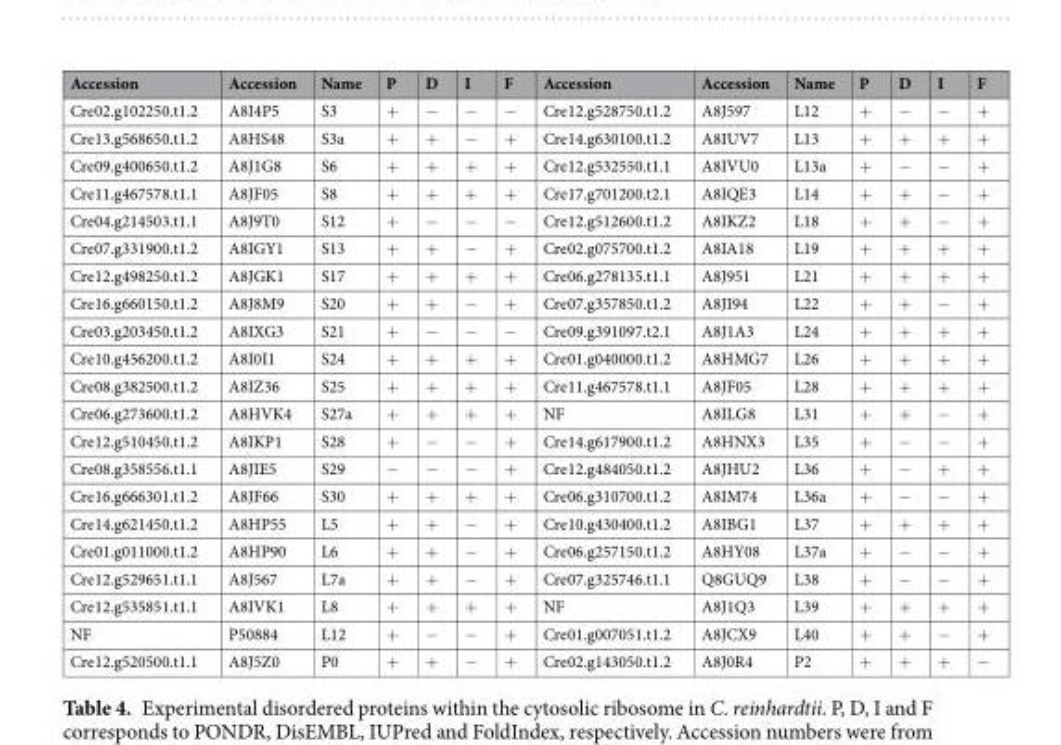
<table><thead><tr><td>Accession</td><td>Accession</td><td>Name</td><td>P</td><td>D</td><td>I</td><td>F</td><td>Accession</td><td>Accession</td><td>Name</td><td>P</td><td>D</td><td>I</td><td>F</td></tr></thead><tbody><tr><td>Cre02.g102250.t1.2</td><td>A8I4P5</td><td>S3</td><td>+</td><td>−</td><td>−</td><td>−</td><td>Cre12.g528750.t1.2</td><td>A8J597</td><td>L12</td><td>+</td><td>−</td><td>−</td><td>+</td></tr><tr><td>Cre13.g568650.t1.2</td><td>A8HS48</td><td>S3a</td><td>+</td><td>+</td><td>−</td><td>+</td><td>Cre14.g630100.t1.2</td><td>A8IUV7</td><td>L13</td><td>+</td><td>+</td><td>+</td><td>+</td></tr><tr><td>Cre09.g400650.t1.2</td><td>A8J1G8</td><td>S6</td><td>+</td><td>+</td><td>+</td><td>+</td><td>Cre12.g532550.t1.1</td><td>A8IVU0</td><td>L13a</td><td>+</td><td>−</td><td>−</td><td>+</td></tr><tr><td>Cre11.g467578.t1.1</td><td>A8JF05</td><td>S8</td><td>+</td><td>+</td><td>+</td><td>+</td><td>Cre17.g701200.t2.1</td><td>A8IQE3</td><td>L14</td><td>+</td><td>+</td><td>−</td><td>+</td></tr><tr><td>Cre04.g214503.t1.1</td><td>A8J9T0</td><td>S12</td><td>+</td><td>−</td><td>−</td><td>−</td><td>Cre12.g512600.t1.2</td><td>A8IKZ2</td><td>L18</td><td>+</td><td>+</td><td>−</td><td>+</td></tr><tr><td>Cre07.g331900.t1.2</td><td>A8IGY1</td><td>S13</td><td>+</td><td>+</td><td>−</td><td>+</td><td>Cre02.g075700.t1.2</td><td>A8IA18</td><td>L19</td><td>+</td><td>+</td><td>+</td><td>+</td></tr><tr><td>Cre12.g498250.t1.2</td><td>A8JGK1</td><td>S17</td><td>+</td><td>+</td><td>+</td><td>+</td><td>Cre06.g278135.t1.1</td><td>A8J951</td><td>L21</td><td>+</td><td>+</td><td>+</td><td>+</td></tr><tr><td>Cre16.g660150.t1.2</td><td>A8J8M9</td><td>S20</td><td>+</td><td>+</td><td>−</td><td>+</td><td>Cre07.g357850.t1.2</td><td>A8JI94</td><td>L22</td><td>+</td><td>+</td><td>−</td><td>+</td></tr><tr><td>Cre03.g203450.t1.2</td><td>A8IXG3</td><td>S21</td><td>+</td><td>−</td><td>−</td><td>−</td><td>Cre09.g391097.t2.1</td><td>A8J1A3</td><td>L24</td><td>+</td><td>+</td><td>+</td><td>+</td></tr><tr><td>Cre10.g456200.t1.2</td><td>A8I0I1</td><td>S24</td><td>+</td><td>+</td><td>+</td><td>+</td><td>Cre01.g040000.t1.2</td><td>A8HMG7</td><td>L26</td><td>+</td><td>+</td><td>+</td><td>+</td></tr><tr><td>Cre08.g382500.t1.2</td><td>A8IZ36</td><td>S25</td><td>+</td><td>+</td><td>+</td><td>+</td><td>Cre11.g467578.t1.1</td><td>A8JF05</td><td>L28</td><td>+</td><td>+</td><td>+</td><td>+</td></tr><tr><td>Cre06.g273600.t1.2</td><td>A8HVK4</td><td>S27a</td><td>+</td><td>+</td><td>+</td><td>+</td><td>NF</td><td>A8ILG8</td><td>L31</td><td>+</td><td>+</td><td>−</td><td>+</td></tr><tr><td>Cre12.g510450.t1.2</td><td>A8IKP1</td><td>S28</td><td>+</td><td>−</td><td>−</td><td>+</td><td>Cre14.g617900.t1.2</td><td>A8HNX3</td><td>L35</td><td>+</td><td>−</td><td>−</td><td>+</td></tr><tr><td>Cre08.g358556.t1.1</td><td>A8JIE5</td><td>S29</td><td>−</td><td>−</td><td>−</td><td>+</td><td>Cre12.g484050.t1.2</td><td>A8JHU2</td><td>L36</td><td>+</td><td>−</td><td>+</td><td>+</td></tr><tr><td>Cre16.g666301.t1.2</td><td>A8JF66</td><td>S30</td><td>+</td><td>+</td><td>+</td><td>+</td><td>Cre06.g310700.t1.2</td><td>A8IM74</td><td>L36a</td><td>+</td><td>−</td><td>−</td><td>+</td></tr><tr><td>Cre14.g621450.t1.2</td><td>A8HP55</td><td>L5</td><td>+</td><td>+</td><td>−</td><td>+</td><td>Cre10.g430400.t1.2</td><td>A8IBG1</td><td>L37</td><td>+</td><td>+</td><td>+</td><td>+</td></tr><tr><td>Cre01.g011000.t1.2</td><td>A8HP90</td><td>L6</td><td>+</td><td>+</td><td>−</td><td>+</td><td>Cre06.g257150.t1.2</td><td>A8HY08</td><td>L37a</td><td>+</td><td>−</td><td>−</td><td>+</td></tr><tr><td>Cre12.g529651.t1.1</td><td>A8J567</td><td>L7a</td><td>+</td><td>+</td><td>−</td><td>+</td><td>Cre07.g325746.t1.1</td><td>Q8GUQ9</td><td>L38</td><td>+</td><td>−</td><td>−</td><td>+</td></tr><tr><td>Cre12.g535851.t1.1</td><td>A8IVK1</td><td>L8</td><td>+</td><td>+</td><td>+</td><td>+</td><td>NF</td><td>A8J1Q3</td><td>L39</td><td>+</td><td>+</td><td>+</td><td>+</td></tr><tr><td>NF</td><td>P50884</td><td>L12</td><td>+</td><td>−</td><td>−</td><td>+</td><td>Cre01.g007051.t1.2</td><td>A8JCX9</td><td>L40</td><td>+</td><td>+</td><td>−</td><td>+</td></tr><tr><td>Cre12.g520500.t1.1</td><td>A8J5Z0</td><td>P0</td><td>+</td><td>+</td><td>−</td><td>+</td><td>Cre02.g143050.t1.2</td><td>A8J0R4</td><td>P2</td><td>+</td><td>+</td><td>+</td><td>−</td></tr></tbody></table>